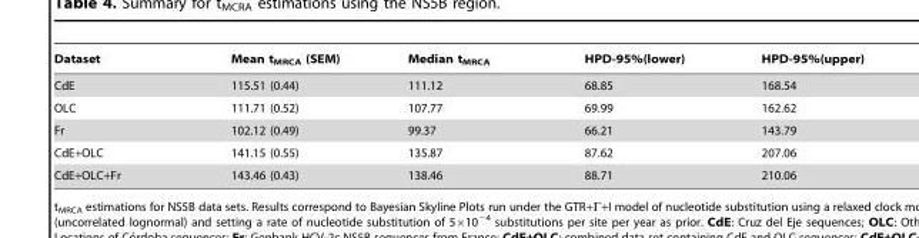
<table><thead><tr><td>Dataset</td><td>Mean t<sub>MRCA</sub> (SEM)</td><td>Median t<sub>MRCA</sub></td><td>HPD-95%(lower)</td><td>HPD-95%(upper)</td></tr></thead><tbody><tr><td>CdE</td><td>115.51 (0.44)</td><td>111.12</td><td>68.85</td><td>168.54</td></tr><tr><td>OLC</td><td>111.71 (0.52)</td><td>107.77</td><td>69.99</td><td>162.62</td></tr><tr><td>Fr</td><td>102.12 (0.49)</td><td>99.37</td><td>66.21</td><td>143.79</td></tr><tr><td>CdE+OLC</td><td>141.15 (0.55)</td><td>135.87</td><td>87.62</td><td>207.06</td></tr><tr><td>CdE+OLC+Fr</td><td>143.46 (0.43)</td><td>138.46</td><td>88.71</td><td>210.06</td></tr></tbody></table>